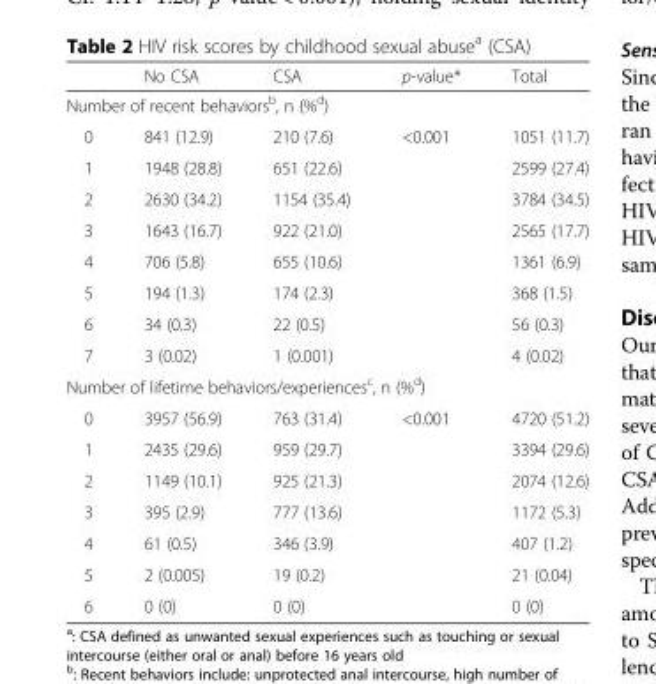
<table><thead><tr><td></td><td>No CSA</td><td>CSA</td><td>p-value*</td><td>Total</td></tr></thead><tbody><tr><td colspan="5">Number of recent behaviors<sup>b</sup>, n (%<sup>d</sup>)</td></tr><tr><td>0</td><td>841 (12.9)</td><td>210 (7.6)</td><td rowspan="8">&lt;0.001</td><td>1051 (11.7)</td></tr><tr><td>1</td><td>1948 (28.8)</td><td>651 (22.6)</td><td>2599 (27.4)</td></tr><tr><td>2</td><td>2630 (34.2)</td><td>1154 (35.4)</td><td>3784 (34.5)</td></tr><tr><td>3</td><td>1643 (16.7)</td><td>922 (21.0)</td><td>2565 (17.7)</td></tr><tr><td>4</td><td>706 (5.8)</td><td>655 (10.6)</td><td>1361 (6.9)</td></tr><tr><td>5</td><td>194 (1.3)</td><td>174 (2.3)</td><td>368 (1.5)</td></tr><tr><td>6</td><td>34 (0.3)</td><td>22 (0.5)</td><td>56 (0.3)</td></tr><tr><td>7</td><td>3 (0.02)</td><td>1 (0.001)</td><td>4 (0.02)</td></tr><tr><td colspan="5">Number of lifetime behaviors/experiences<sup>c</sup>, n (%<sup>d</sup>)</td></tr><tr><td>0</td><td>3957 (56.9)</td><td>763 (31.4)</td><td rowspan="7">&lt;0.001</td><td>4720 (51.2)</td></tr><tr><td>1</td><td>2435 (29.6)</td><td>959 (29.7)</td><td>3394 (29.6)</td></tr><tr><td>2</td><td>1149 (10.1)</td><td>925 (21.3)</td><td>2074 (12.6)</td></tr><tr><td>3</td><td>395 (2.9)</td><td>777 (13.6)</td><td>1172 (5.3)</td></tr><tr><td>4</td><td>61 (0.5)</td><td>346 (3.9)</td><td>407 (1.2)</td></tr><tr><td>5</td><td>2 (0.005)</td><td>19 (0.2)</td><td>21 (0.04)</td></tr><tr><td>6</td><td>0 (0)</td><td>0 (0)</td><td>0 (0)</td></tr></tbody></table>